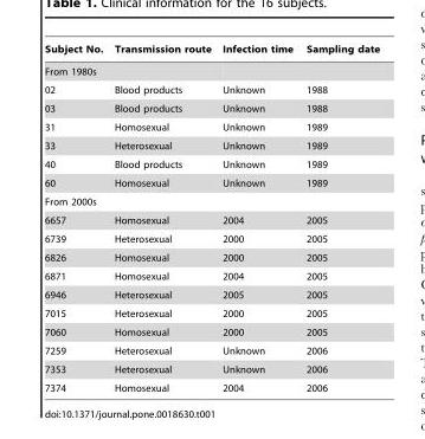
<table><thead><tr><td>Subject No.</td><td>Transmission route</td><td>Infection time</td><td>Sampling date</td></tr></thead><tbody><tr><td colspan="4">From 1980s</td></tr><tr><td>02</td><td>Blood products</td><td>Unknown</td><td>1988</td></tr><tr><td>03</td><td>Blood products</td><td>Unknown</td><td>1988</td></tr><tr><td>31</td><td>Homosexual</td><td>Unknown</td><td>1989</td></tr><tr><td>33</td><td>Heterosexual</td><td>Unknown</td><td>1989</td></tr><tr><td>40</td><td>Blood products</td><td>Unknown</td><td>1989</td></tr><tr><td>60</td><td>Homosexual</td><td>Unknown</td><td>1989</td></tr><tr><td colspan="4">From 2000s</td></tr><tr><td>6657</td><td>Homosexual</td><td>2004</td><td>2005</td></tr><tr><td>6739</td><td>Heterosexual</td><td>2000</td><td>2005</td></tr><tr><td>6826</td><td>Homosexual</td><td>2000</td><td>2005</td></tr><tr><td>6871</td><td>Homosexual</td><td>2004</td><td>2005</td></tr><tr><td>6946</td><td>Heterosexual</td><td>2005</td><td>2005</td></tr><tr><td>7015</td><td>Heterosexual</td><td>2000</td><td>2005</td></tr><tr><td>7060</td><td>Homosexual</td><td>2000</td><td>2005</td></tr><tr><td>7259</td><td>Heterosexual</td><td>Unknown</td><td>2006</td></tr><tr><td>7353</td><td>Heterosexual</td><td>Unknown</td><td>2006</td></tr><tr><td>7374</td><td>Homosexual</td><td>2004</td><td>2006</td></tr></tbody></table>